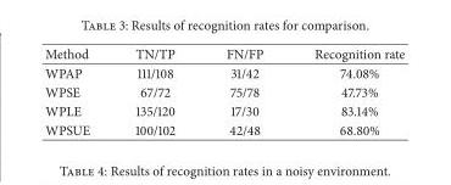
<table><thead><tr><td>Method</td><td>TN/TP</td><td>FN/FP</td><td>Recognition rate</td></tr></thead><tbody><tr><td>WPAP</td><td>111/108</td><td>31/42</td><td>74.08%</td></tr><tr><td>WPSE</td><td>67/72</td><td>75/78</td><td>47.73%</td></tr><tr><td>WPLE</td><td>135/120</td><td>17/30</td><td>83.14%</td></tr><tr><td>WPSUE</td><td>100/102</td><td>42/48</td><td>68.80%</td></tr></tbody></table>